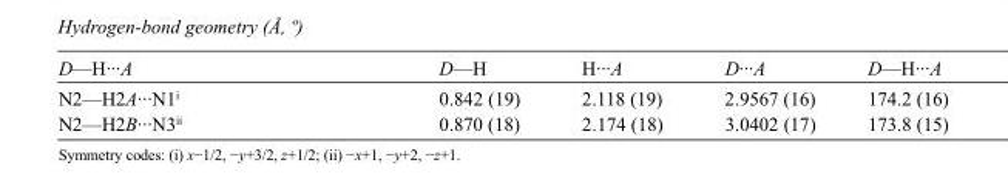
<table><tbody><tr><td>D—H···A</td><td>D—H</td><td>H···A</td><td>D···A</td><td>D—H···A</td></tr><tr><td>N2—H2A···N1<sup>i</sup></td><td>0.842 (19)</td><td>2.118 (19)</td><td>2.9567 (16)</td><td>174.2 (16)</td></tr><tr><td>N2—H2B···N3<sup>ii</sup></td><td>0.870 (18)</td><td>2.174 (18)</td><td>3.0402 (17)</td><td>173.8 (15)</td></tr></tbody></table>